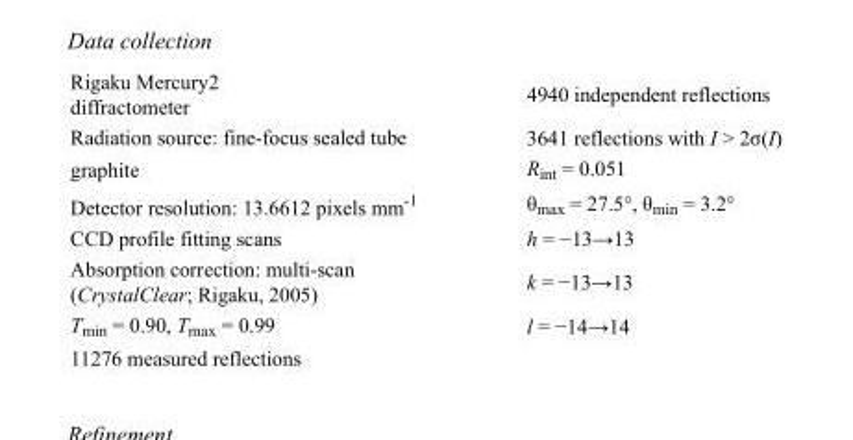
<table><tbody><tr><td>Rigaku Mercury2 diffractometer</td><td>4940 independent reflections</td></tr><tr><td>Radiation source: fine-focus sealed tube</td><td>3641 reflections with I &gt; 2σ(I)</td></tr><tr><td>graphite</td><td>R<sub>int</sub> = 0.051</td></tr><tr><td>Detector resolution: 13.6612 pixels mm<sup>-1</sup></td><td>θ<sub>max</sub> = 27.5°, θ<sub>min</sub> = 3.2°</td></tr><tr><td>CCD profile fitting scans</td><td>h = −13→13</td></tr><tr><td>Absorption correction: multi-scan (CrystalClear; Rigaku, 2005)</td><td>k = −13→13</td></tr><tr><td>T<sub>min</sub> = 0.90, T<sub>max</sub> = 0.99</td><td>l = −14→14</td></tr><tr><td>11276 measured reflections</td><td></td></tr></tbody></table>